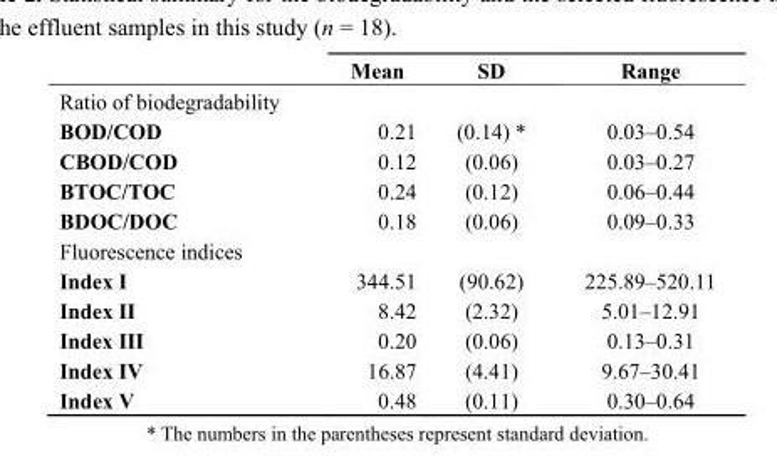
<table><thead><tr><td></td><td>Mean</td><td>SD</td><td>Range</td></tr></thead><tbody><tr><td colspan="4">Ratio of biodegradability</td></tr><tr><td>BOD/COD</td><td>0.21</td><td>(0.14) *</td><td>0.03–0.54</td></tr><tr><td>CBOD/COD</td><td>0.12</td><td>(0.06)</td><td>0.03–0.27</td></tr><tr><td>BTOC/TOC</td><td>0.24</td><td>(0.12)</td><td>0.06–0.44</td></tr><tr><td>BDOC/DOC</td><td>0.18</td><td>(0.06)</td><td>0.09–0.33</td></tr><tr><td colspan="4">Fluorescence indices</td></tr><tr><td>Index I</td><td>344.51</td><td>(90.62)</td><td>225.89–520.11</td></tr><tr><td>Index II</td><td>8.42</td><td>(2.32)</td><td>5.01–12.91</td></tr><tr><td>Index III</td><td>0.20</td><td>(0.06)</td><td>0.13–0.31</td></tr><tr><td>Index IV</td><td>16.87</td><td>(4.41)</td><td>9.67–30.41</td></tr><tr><td>Index V</td><td>0.48</td><td>(0.11)</td><td>0.30–0.64</td></tr></tbody></table>